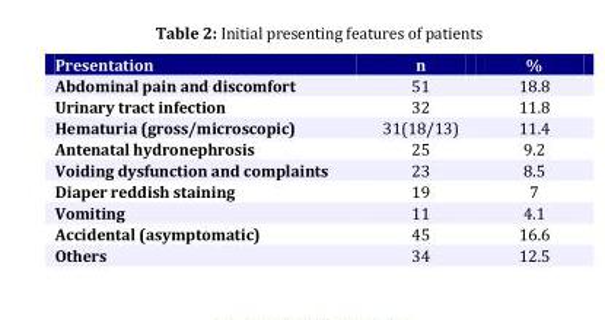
<table><thead><tr><td>Presentation</td><td>n</td><td>%</td></tr></thead><tbody><tr><td>Abdominal pain and discomfort</td><td>51</td><td>18.8</td></tr><tr><td>Urinary tract infection</td><td>32</td><td>11.8</td></tr><tr><td>Hematuria (gross/microscopic)</td><td>31(18/13)</td><td>11.4</td></tr><tr><td>Antenatal hydronephrosis</td><td>25</td><td>9.2</td></tr><tr><td>Voiding dysfunction and complaints</td><td>23</td><td>8.5</td></tr><tr><td>Diaper reddish staining</td><td>19</td><td>7</td></tr><tr><td>Vomiting</td><td>11</td><td>4.1</td></tr><tr><td>Accidental (asymptomatic)</td><td>45</td><td>16.6</td></tr><tr><td>Others</td><td>34</td><td>12.5</td></tr></tbody></table>